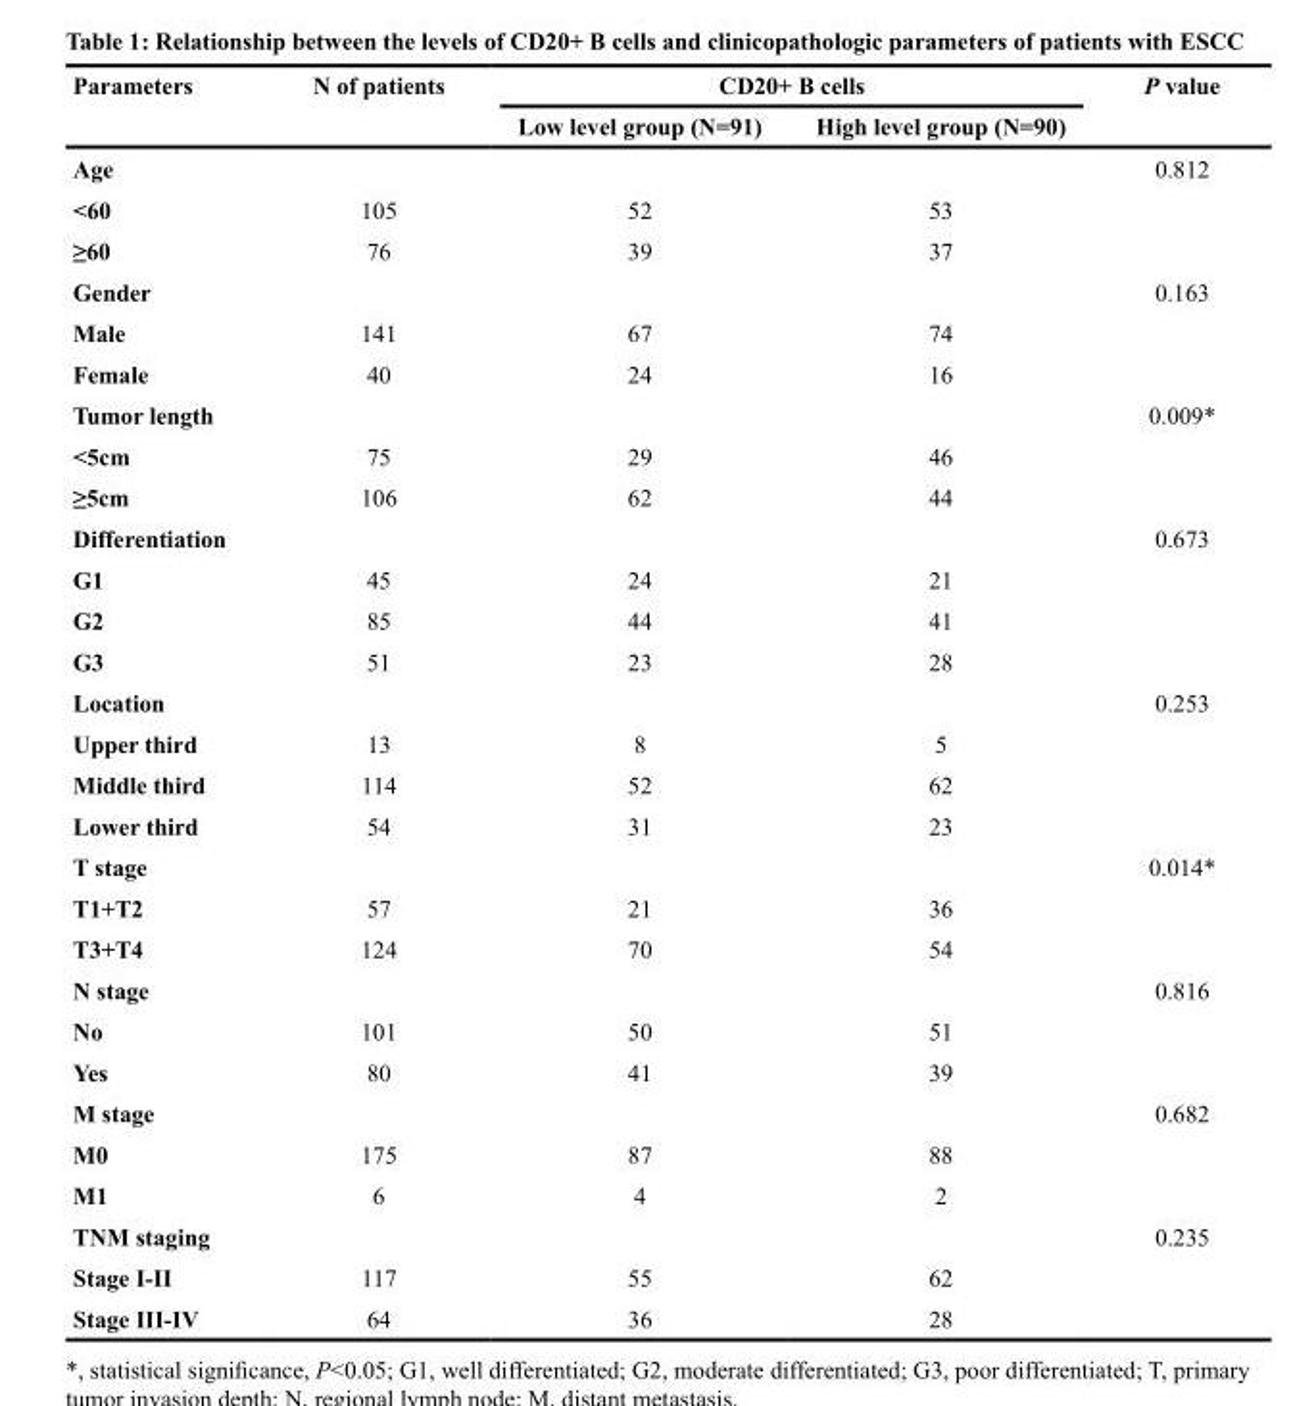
<table><thead><tr><td rowspan="2">Parameters</td><td rowspan="2">N of patients</td><td colspan="2">CD20+ B cells</td><td rowspan="2">P value</td></tr><tr><td>Low level group (N=91)</td><td>High level group (N=90)</td></tr></thead><tbody><tr><td>Age</td><td></td><td></td><td></td><td>0.812</td></tr><tr><td>&lt;60</td><td>105</td><td>52</td><td>53</td><td></td></tr><tr><td>≥60</td><td>76</td><td>39</td><td>37</td><td></td></tr><tr><td>Gender</td><td></td><td></td><td></td><td>0.163</td></tr><tr><td>Male</td><td>141</td><td>67</td><td>74</td><td></td></tr><tr><td>Female</td><td>40</td><td>24</td><td>16</td><td></td></tr><tr><td>Tumor length</td><td></td><td></td><td></td><td>0.009*</td></tr><tr><td>&lt;5cm</td><td>75</td><td>29</td><td>46</td><td></td></tr><tr><td>≥5cm</td><td>106</td><td>62</td><td>44</td><td></td></tr><tr><td>Differentiation</td><td></td><td></td><td></td><td>0.673</td></tr><tr><td>G1</td><td>45</td><td>24</td><td>21</td><td></td></tr><tr><td>G2</td><td>85</td><td>44</td><td>41</td><td></td></tr><tr><td>G3</td><td>51</td><td>23</td><td>28</td><td></td></tr><tr><td>Location</td><td></td><td></td><td></td><td>0.253</td></tr><tr><td>Upper third</td><td>13</td><td>8</td><td>5</td><td></td></tr><tr><td>Middle third</td><td>114</td><td>52</td><td>62</td><td></td></tr><tr><td>Lower third</td><td>54</td><td>31</td><td>23</td><td></td></tr><tr><td>T stage</td><td></td><td></td><td></td><td>0.014*</td></tr><tr><td>T1+T2</td><td>57</td><td>21</td><td>36</td><td></td></tr><tr><td>T3+T4</td><td>124</td><td>70</td><td>54</td><td></td></tr><tr><td>N stage</td><td></td><td></td><td></td><td>0.816</td></tr><tr><td>No</td><td>101</td><td>50</td><td>51</td><td></td></tr><tr><td>Yes</td><td>80</td><td>41</td><td>39</td><td></td></tr><tr><td>M stage</td><td></td><td></td><td></td><td>0.682</td></tr><tr><td>M0</td><td>175</td><td>87</td><td>88</td><td></td></tr><tr><td>M1</td><td>6</td><td>4</td><td>2</td><td></td></tr><tr><td>TNM staging</td><td></td><td></td><td></td><td>0.235</td></tr><tr><td>Stage I-II</td><td>117</td><td>55</td><td>62</td><td></td></tr><tr><td>Stage III-IV</td><td>64</td><td>36</td><td>28</td><td></td></tr></tbody></table>